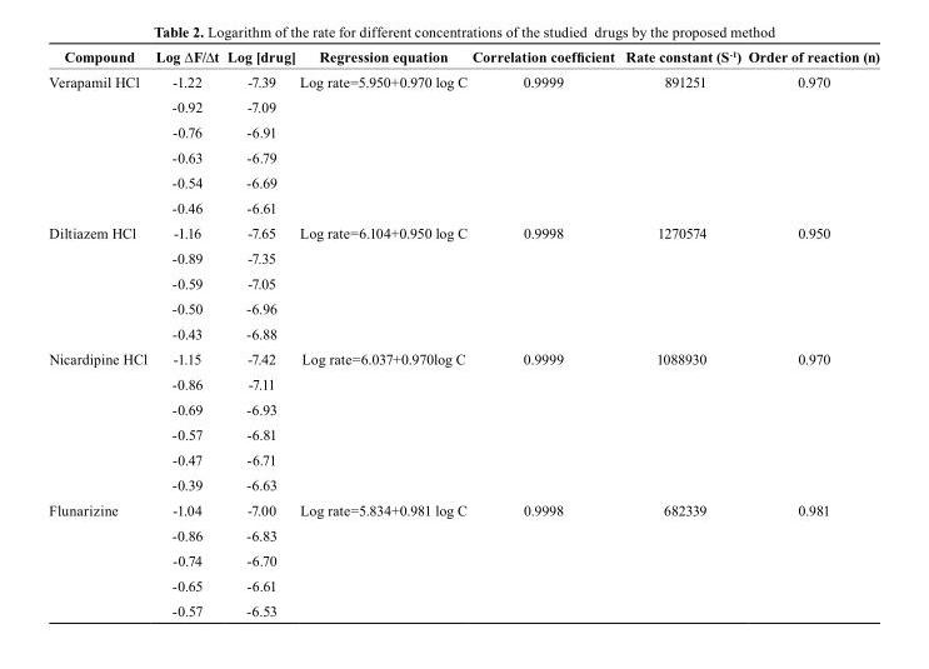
<table><thead><tr><td>Compound</td><td>Log ∆F/∆t</td><td>Log [drug]</td><td>regression equation</td><td>Correlation coefficient</td><td>rate constant (S<sup>-1</sup>)</td><td>order of reaction (n)</td></tr></thead><tbody><tr><td rowspan="6">Verapamil HCl</td><td>-1.22</td><td>-7.39</td><td rowspan="6">Log rate=5.950+0.970 log C</td><td rowspan="6">0.9999</td><td rowspan="6">891251</td><td rowspan="6">0.970</td></tr><tr><td>-0.92</td><td>-7.09</td></tr><tr><td>-0.76</td><td>-6.91</td></tr><tr><td>-0.63</td><td>-6.79</td></tr><tr><td>-0.54</td><td>-6.69</td></tr><tr><td>-0.46</td><td>-6.61</td></tr><tr><td rowspan="5">Diltiazem HCl</td><td>-1.16</td><td>-7.65</td><td rowspan="5">Log rate=6.104+0.950 log C</td><td rowspan="5">0.9998</td><td rowspan="5">1270574</td><td rowspan="5">0.950</td></tr><tr><td>-0.89</td><td>-7.35</td></tr><tr><td>-0.59</td><td>-7.05</td></tr><tr><td>-0.50</td><td>-6.96</td></tr><tr><td>-0.43</td><td>-6.88</td></tr><tr><td rowspan="6">Nicardipine HCl</td><td>-1.15</td><td>-7.42</td><td rowspan="6">Log rate=6.037+0.970log C</td><td rowspan="6">0.9999</td><td rowspan="6">1088930</td><td rowspan="6">0.970</td></tr><tr><td>-0.86</td><td>-7.11</td></tr><tr><td>-0.69</td><td>-6.93</td></tr><tr><td>-0.57</td><td>-6.81</td></tr><tr><td>-0.47</td><td>-6.71</td></tr><tr><td>-0.39</td><td>-6.63</td></tr><tr><td rowspan="5">Flunarizine</td><td>-1.04</td><td>-7.00</td><td rowspan="5">Log rate=5.834+0.981 log C</td><td rowspan="5">0.9998</td><td rowspan="5">682339</td><td rowspan="5">0.981</td></tr><tr><td>-0.86</td><td>-6.83</td></tr><tr><td>-0.74</td><td>-6.70</td></tr><tr><td>-0.65</td><td>-6.61</td></tr><tr><td>-0.57</td><td>-6.53</td></tr></tbody></table>